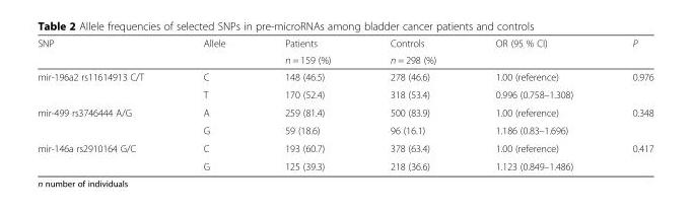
<table><thead><tr><td rowspan="2">SNP</td><td rowspan="2">Allele</td><td rowspan="2">Patients n = 159 (%)</td><td rowspan="2">Controls n = 298 (%)</td><td rowspan="2">OR (95 % CI)</td><td rowspan="2">P</td></tr><tr></tr></thead><tbody><tr><td rowspan="2">mir-196a2 rs11614913 C/T</td><td>C</td><td>148 (46.5)</td><td>278 (46.6)</td><td>1.00 (reference)</td><td rowspan="2">0.976</td></tr><tr><td>T</td><td>170 (52.4)</td><td>318 (53.4)</td><td>0.996 (0.758–1.308)</td></tr><tr><td rowspan="2">mir-499 rs3746444 A/G</td><td>A</td><td>259 (81.4)</td><td>500 (83.9)</td><td>1.00 (reference)</td><td rowspan="2">0.348</td></tr><tr><td>G</td><td>59 (18.6)</td><td>96 (16.1)</td><td>1.186 (0.83–1.696)</td></tr><tr><td rowspan="2">mir-146a rs2910164 G/C</td><td>C</td><td>193 (60.7)</td><td>378 (63.4)</td><td>1.00 (reference)</td><td rowspan="2">0.417</td></tr><tr><td>G</td><td>125 (39.3)</td><td>218 (36.6)</td><td>1.123 (0.849–1.486)</td></tr></tbody></table>